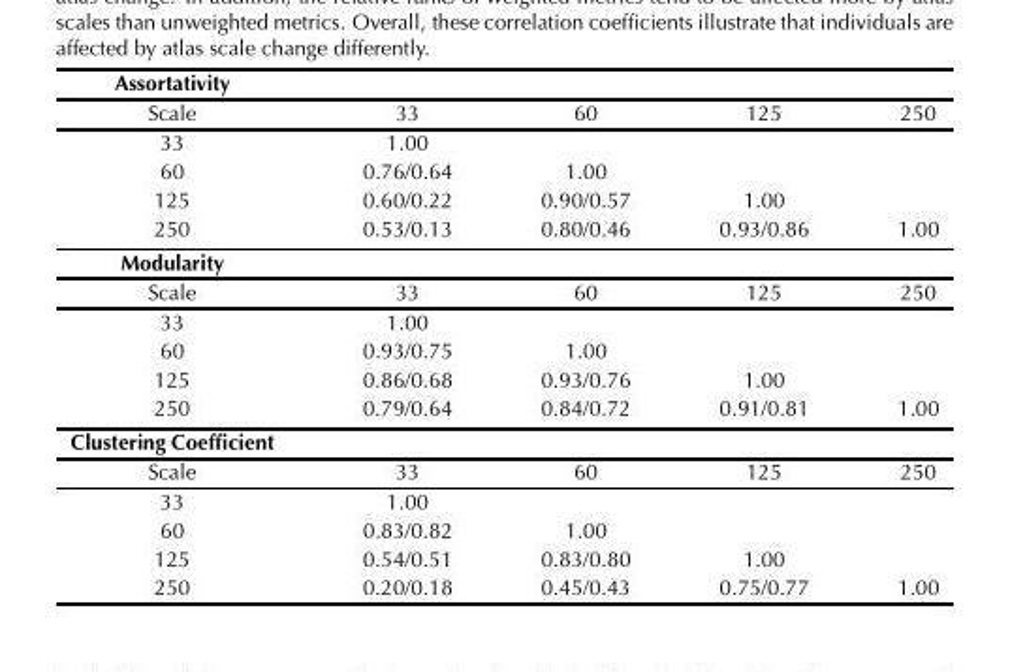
<table><thead><tr><td rowspan="2">Assortativity Scale</td><td rowspan="2">33</td><td rowspan="2">60</td><td rowspan="2">125</td><td rowspan="2">250</td></tr><tr></tr></thead><tbody><tr><td>33</td><td>1.00</td><td></td><td></td><td></td></tr><tr><td>60</td><td>0.76/0.64</td><td>1.00</td><td></td><td></td></tr><tr><td>125</td><td>0.60/0.22</td><td>0.90/0.57</td><td>1.00</td><td></td></tr><tr><td>250</td><td>0.53/0.13</td><td>0.80/0.46</td><td>0.93/0.86</td><td>1.00</td></tr><tr><td colspan="5">Modularity</td></tr><tr><td>Scale</td><td>33</td><td>60</td><td>125</td><td>250</td></tr><tr><td>33</td><td>1.00</td><td></td><td></td><td></td></tr><tr><td>60</td><td>0.93/0.75</td><td>1.00</td><td></td><td></td></tr><tr><td>125</td><td>0.86/0.68</td><td>0.93/0.76</td><td>1.00</td><td></td></tr><tr><td>250</td><td>0.79/0.64</td><td>0.84/0.72</td><td>0.91/0.81</td><td>1.00</td></tr><tr><td colspan="5">Clustering Coefficient</td></tr><tr><td>Scale</td><td>33</td><td>60</td><td>125</td><td>250</td></tr><tr><td>33</td><td>1.00</td><td></td><td></td><td></td></tr><tr><td>60</td><td>0.83/0.82</td><td>1.00</td><td></td><td></td></tr><tr><td>125</td><td>0.54/0.51</td><td>0.83/0.80</td><td>1.00</td><td></td></tr><tr><td>250</td><td>0.20/0.18</td><td>0.45/0.43</td><td>0.75/0.77</td><td>1.00</td></tr></tbody></table>